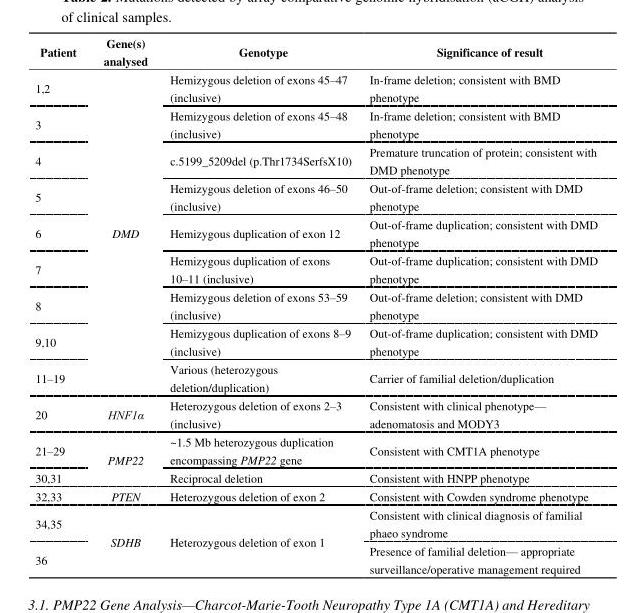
<table><thead><tr><td>Patient</td><td>Gene(s) analysed</td><td>Genotype</td><td>Significance of result</td></tr></thead><tbody><tr><td>1,2</td><td rowspan="9">DMD</td><td>Hemizygous deletion of exons 45–47 (inclusive)</td><td>In-frame deletion; consistent with BMD phenotype</td></tr><tr><td>3</td><td>Hemizygous deletion of exons 45–48 (inclusive)</td><td>In-frame deletion; consistent with BMD phenotype</td></tr><tr><td>4</td><td>c.5199_5209del (p.Thr1734SerfsX10)</td><td>Premature truncation of protein; consistent with DMD phenotype</td></tr><tr><td>5</td><td>Hemizygous deletion of exons 46–50 (inclusive)</td><td>Out-of-frame deletion; consistent with DMD phenotype</td></tr><tr><td>6</td><td>Hemizygous duplication of exon 12</td><td>Out-of-frame duplication; consistent with DMD phenotype</td></tr><tr><td>7</td><td>Hemizygous duplication of exons 10–11 (inclusive)</td><td>Out-of-frame duplication; consistent with DMD phenotype</td></tr><tr><td>8</td><td>Hemizygous deletion of exons 53–59 (inclusive)</td><td>Out-of-frame deletion; consistent with DMD phenotype</td></tr><tr><td>9,10</td><td>Hemizygous duplication of exons 8–9 (inclusive)</td><td>Out-of-frame duplication; consistent with DMD phenotype</td></tr><tr><td>11–19</td><td>Various (heterozygous deletion/duplication)</td><td>Carrier of familial deletion/duplication</td></tr><tr><td>20</td><td>HNF1α</td><td>Heterozygous deletion of exons 2–3 (inclusive)</td><td>Consistent with clinical phenotype— adenomatosis and MODY3</td></tr><tr><td>21–29</td><td rowspan="2">PMP22</td><td>~1.5 Mb heterozygous duplication encompassing PMP22 gene</td><td>Consistent with CMT1A phenotype</td></tr><tr><td>30,31</td><td>Reciprocal deletion</td><td>Consistent with HNPP phenotype</td></tr><tr><td>32,33</td><td>PTEN</td><td>Heterozygous deletion of exon 2</td><td>Consistent with Cowden syndrome phenotype</td></tr><tr><td>34,35</td><td rowspan="2">SDHB</td><td rowspan="2">Heterozygous deletion of exon 1</td><td>Consistent with clinical diagnosis of familial phaeo syndrome</td></tr><tr><td>36</td><td>Presence of familial deletion— appropriate surveillance/operative management required</td></tr></tbody></table>